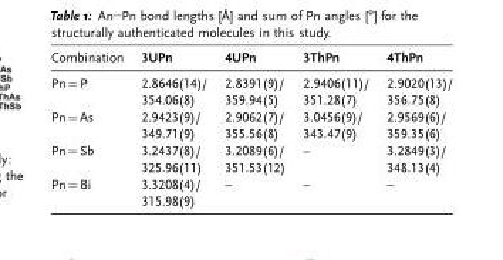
<table><thead><tr><td>Combination</td><td>3UPn</td><td>4UPn</td><td>3ThPn</td><td>4ThPn</td></tr></thead><tbody><tr><td>Pn=P</td><td>2.8646(14)/ 354.06(8)</td><td>2.8391(9)/ 359.94(5)</td><td>2.9406(11)/ 351.28(7)</td><td>2.9020(13)/ 356.75(8)</td></tr><tr><td>Pn=As</td><td>2.9423(9)/ 349.71(9)</td><td>2.9062(7)/ 355.56(8)</td><td>3.0456(9)/ 343.47(9)</td><td>2.9569(6)/ 359.35(6)</td></tr><tr><td>Pn=Sb</td><td>3.2437(8)/ 325.96(11)</td><td>3.2089(6)/ 351.53(12)</td><td>–</td><td>3.2849(3)/ 348.13(4)</td></tr><tr><td>Pn=Bi</td><td>3.3208(4)/ 315.98(9)</td><td>–</td><td>–</td><td>–</td></tr></tbody></table>